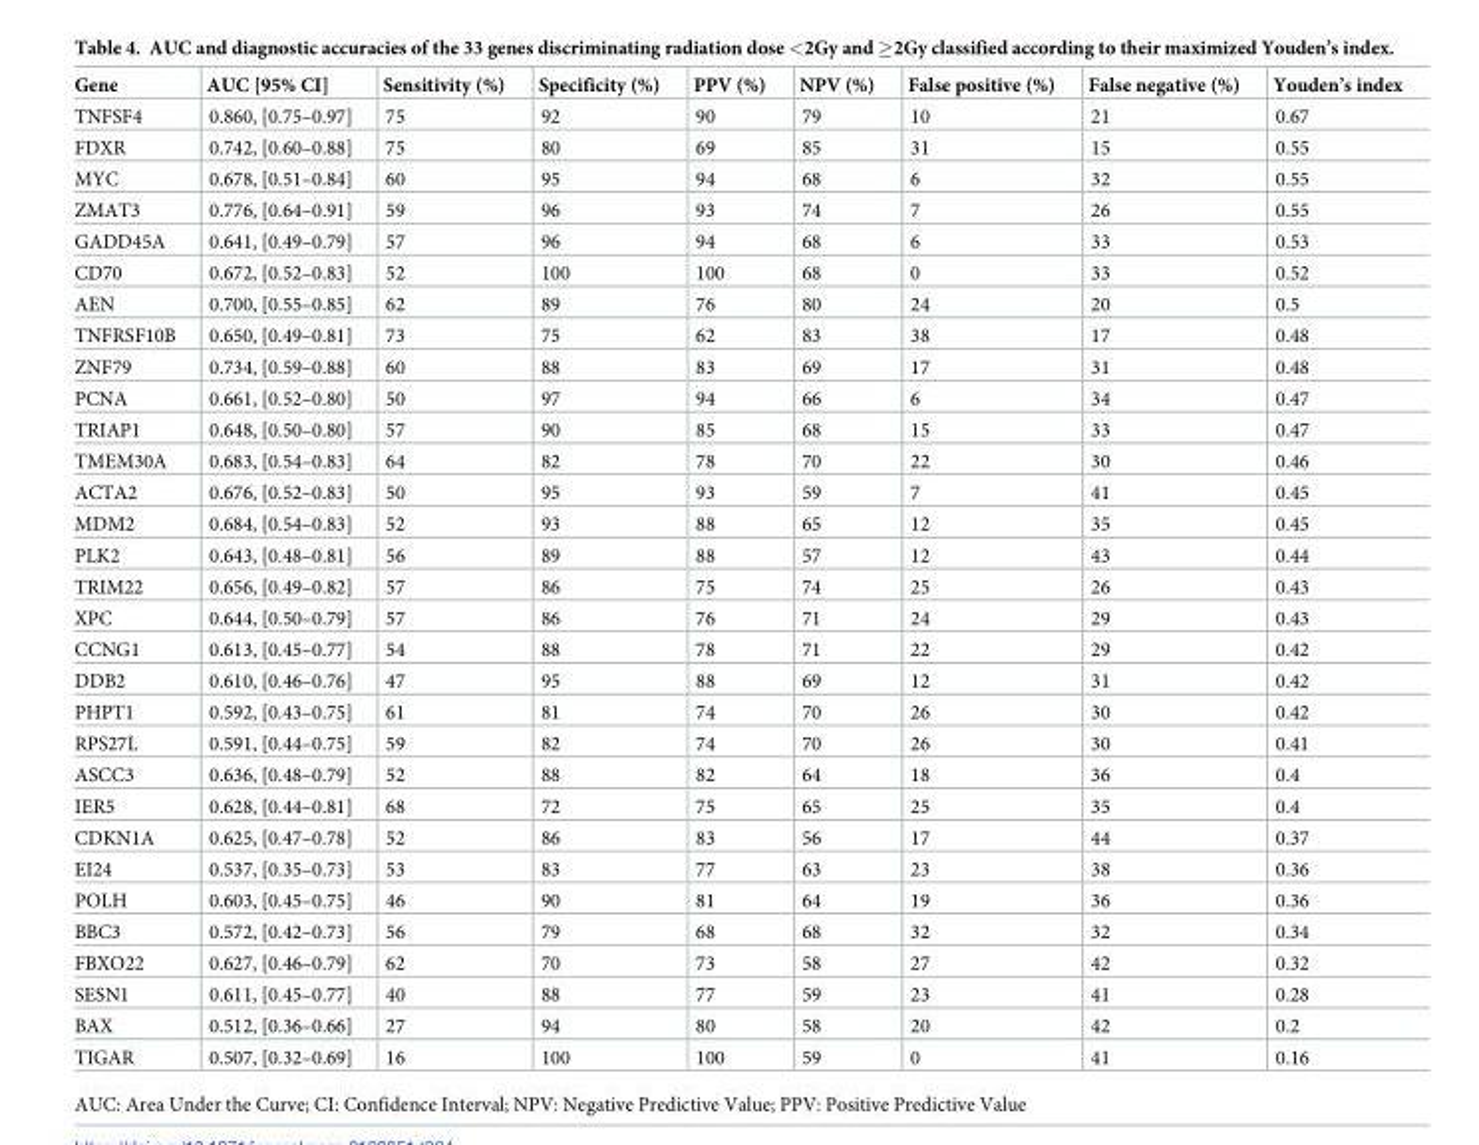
<table><thead><tr><td>Gene</td><td>AUC [95% CI]</td><td>Sensitivity (%)</td><td>Specificity (%)</td><td>PPV (%)</td><td>NPV (%)</td><td>False positive (%)</td><td>False negative (%)</td><td>Youden’s index</td></tr></thead><tbody><tr><td>TNFSF4</td><td>0.860, [0.75–0.97]</td><td>75</td><td>92</td><td>90</td><td>79</td><td>10</td><td>21</td><td>0.67</td></tr><tr><td>FDXR</td><td>0.742, [0.60–0.88]</td><td>75</td><td>80</td><td>69</td><td>85</td><td>31</td><td>15</td><td>0.55</td></tr><tr><td>MYC</td><td>0.678, [0.51–0.84]</td><td>60</td><td>95</td><td>94</td><td>68</td><td>6</td><td>32</td><td>0.55</td></tr><tr><td>ZMAT3</td><td>0.776, [0.64–0.91]</td><td>59</td><td>96</td><td>93</td><td>74</td><td>7</td><td>26</td><td>0.55</td></tr><tr><td>GADD45A</td><td>0.641, [0.49–0.79]</td><td>57</td><td>96</td><td>94</td><td>68</td><td>6</td><td>33</td><td>0.53</td></tr><tr><td>CD70</td><td>0.672, [0.52–0.83]</td><td>52</td><td>100</td><td>100</td><td>68</td><td>0</td><td>33</td><td>0.52</td></tr><tr><td>AEN</td><td>0.700, [0.55–0.85]</td><td>62</td><td>89</td><td>76</td><td>80</td><td>24</td><td>20</td><td>0.5</td></tr><tr><td>TNFRSF10B</td><td>0.650, [0.49–0.81]</td><td>73</td><td>75</td><td>62</td><td>83</td><td>38</td><td>17</td><td>0.48</td></tr><tr><td>ZNF79</td><td>0.734, [0.59–0.88]</td><td>60</td><td>88</td><td>83</td><td>69</td><td>17</td><td>31</td><td>0.48</td></tr><tr><td>PCNA</td><td>0.661, [0.52–0.80]</td><td>50</td><td>97</td><td>94</td><td>66</td><td>6</td><td>34</td><td>0.47</td></tr><tr><td>TRIAP1</td><td>0.648, [0.50–0.80]</td><td>57</td><td>90</td><td>85</td><td>68</td><td>15</td><td>33</td><td>0.47</td></tr><tr><td>TMEM30A</td><td>0.683, [0.54–0.83]</td><td>64</td><td>82</td><td>78</td><td>70</td><td>22</td><td>30</td><td>0.46</td></tr><tr><td>ACTA2</td><td>0.676, [0.52–0.83]</td><td>50</td><td>95</td><td>93</td><td>59</td><td>7</td><td>41</td><td>0.45</td></tr><tr><td>MDM2</td><td>0.684, [0.54–0.83]</td><td>52</td><td>93</td><td>88</td><td>65</td><td>12</td><td>35</td><td>0.45</td></tr><tr><td>PLK2</td><td>0.643, [0.48–0.81]</td><td>56</td><td>89</td><td>88</td><td>57</td><td>12</td><td>43</td><td>0.44</td></tr><tr><td>TRIM22</td><td>0.656, [0.49–0.82]</td><td>57</td><td>86</td><td>75</td><td>74</td><td>25</td><td>26</td><td>0.43</td></tr><tr><td>XPC</td><td>0.644, [0.50–0.79]</td><td>57</td><td>86</td><td>76</td><td>71</td><td>24</td><td>29</td><td>0.43</td></tr><tr><td>CCNG1</td><td>0.613, [0.45–0.77]</td><td>54</td><td>88</td><td>78</td><td>71</td><td>22</td><td>29</td><td>0.42</td></tr><tr><td>DDB2</td><td>0.610, [0.46–0.76]</td><td>47</td><td>95</td><td>88</td><td>69</td><td>12</td><td>31</td><td>0.42</td></tr><tr><td>PHPT1</td><td>0.592, [0.43–0.75]</td><td>61</td><td>81</td><td>74</td><td>70</td><td>26</td><td>30</td><td>0.42</td></tr><tr><td>RPS27L</td><td>0.591, [0.44–0.75]</td><td>59</td><td>82</td><td>74</td><td>70</td><td>26</td><td>30</td><td>0.41</td></tr><tr><td>ASCC3</td><td>0.636, [0.48–0.79]</td><td>52</td><td>88</td><td>82</td><td>64</td><td>18</td><td>36</td><td>0.4</td></tr><tr><td>IER5</td><td>0.628, [0.44–0.81]</td><td>68</td><td>72</td><td>75</td><td>65</td><td>25</td><td>35</td><td>0.4</td></tr><tr><td>CDKN1A</td><td>0.625, [0.47–0.78]</td><td>52</td><td>86</td><td>83</td><td>56</td><td>17</td><td>44</td><td>0.37</td></tr><tr><td>EI24</td><td>0.537, [0.35–0.73]</td><td>53</td><td>83</td><td>77</td><td>63</td><td>23</td><td>38</td><td>0.36</td></tr><tr><td>POLH</td><td>0.603, [0.45–0.75]</td><td>46</td><td>90</td><td>81</td><td>64</td><td>19</td><td>36</td><td>0.36</td></tr><tr><td>BBC3</td><td>0.572, [0.42–0.73]</td><td>56</td><td>79</td><td>68</td><td>68</td><td>32</td><td>32</td><td>0.34</td></tr><tr><td>FBXO22</td><td>0.627, [0.46–0.79]</td><td>62</td><td>70</td><td>73</td><td>58</td><td>27</td><td>42</td><td>0.32</td></tr><tr><td>SESN1</td><td>0.611, [0.45–0.77]</td><td>40</td><td>88</td><td>77</td><td>59</td><td>23</td><td>41</td><td>0.28</td></tr><tr><td>BAX</td><td>0.512, [0.36–0.66]</td><td>27</td><td>94</td><td>80</td><td>58</td><td>20</td><td>42</td><td>0.2</td></tr><tr><td>TIGAR</td><td>0.507, [0.32–0.69]</td><td>16</td><td>100</td><td>100</td><td>59</td><td>0</td><td>41</td><td>0.16</td></tr></tbody></table>